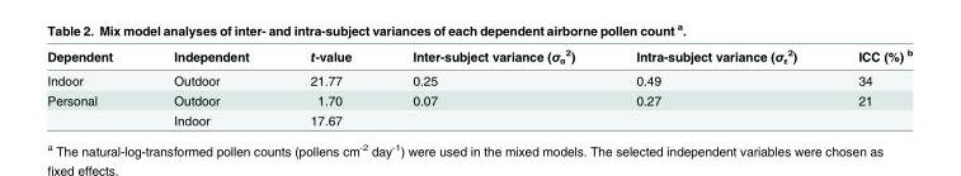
<table><thead><tr><td>Dependent</td><td>Independent</td><td>t-value</td><td>Inter-subject variance (σ<sub>α</sub> <sup>2</sup>)</td><td>Intra-subject variance (σ<sub>ε</sub> <sup>2</sup>)</td><td>ICC (%) <sup>b</sup></td></tr></thead><tbody><tr><td>Indoor</td><td>Outdoor</td><td>21.77</td><td>0.25</td><td>0.49</td><td>34</td></tr><tr><td rowspan="2">Personal</td><td>Outdoor</td><td>1.70</td><td>0.07</td><td>0.27</td><td>21</td></tr><tr><td>Indoor</td><td>17.67</td><td></td><td></td><td></td></tr></tbody></table>